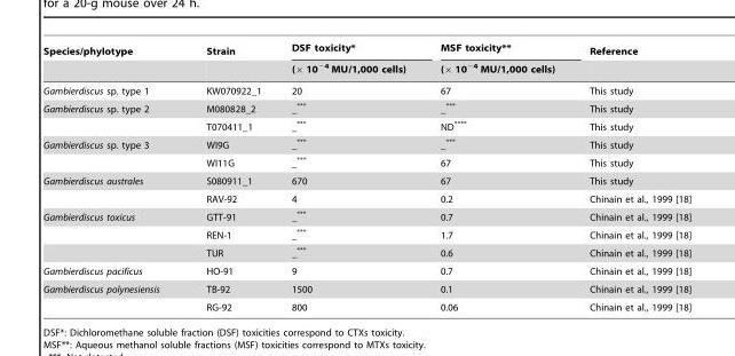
<table><thead><tr><td rowspan="2">Species/phylotype</td><td rowspan="2">Strain</td><td rowspan="2">DSF toxicity* (× 10<sup>−4</sup> MU/1,000 cells)</td><td rowspan="2">MSF toxicity** (× 10<sup>−4</sup> MU/1,000 cells)</td><td rowspan="2">Reference</td></tr><tr></tr></thead><tbody><tr><td>Gambierdiscus sp. type 1</td><td>KW070922_1</td><td>20</td><td>67</td><td>This study</td></tr><tr><td rowspan="2">Gambierdiscus sp. type 2</td><td>M080828_2</td><td>―***</td><td>―***</td><td>This study</td></tr><tr><td>T070411_1</td><td>―***</td><td>ND****</td><td>This study</td></tr><tr><td rowspan="2">Gambierdiscus sp. type 3</td><td>WI9G</td><td>―***</td><td>―***</td><td>This study</td></tr><tr><td>WI11G</td><td>―***</td><td>67</td><td>This study</td></tr><tr><td rowspan="2">Gambierdiscus australes</td><td>S080911_1</td><td>670</td><td>67</td><td>This study</td></tr><tr><td>RAV-92</td><td>4</td><td>0.2</td><td>Chinain et al., 1999 [18]</td></tr><tr><td rowspan="3">Gambierdiscus toxicus</td><td>GTT-91</td><td>―***</td><td>0.7</td><td>Chinain et al., 1999 [18]</td></tr><tr><td>REN-1</td><td>―***</td><td>1.7</td><td>Chinain et al., 1999 [18]</td></tr><tr><td>TUR</td><td>―***</td><td>0.6</td><td>Chinain et al., 1999 [18]</td></tr><tr><td>Gambierdiscus pacificus</td><td>HO-91</td><td>9</td><td>0.7</td><td>Chinain et al., 1999 [18]</td></tr><tr><td rowspan="2">Gambierdiscus polynesiensis</td><td>TB-92</td><td>1500</td><td>0.1</td><td>Chinain et al., 1999 [18]</td></tr><tr><td>RG-92</td><td>800</td><td>0.06</td><td>Chinain et al., 1999 [18]</td></tr></tbody></table>